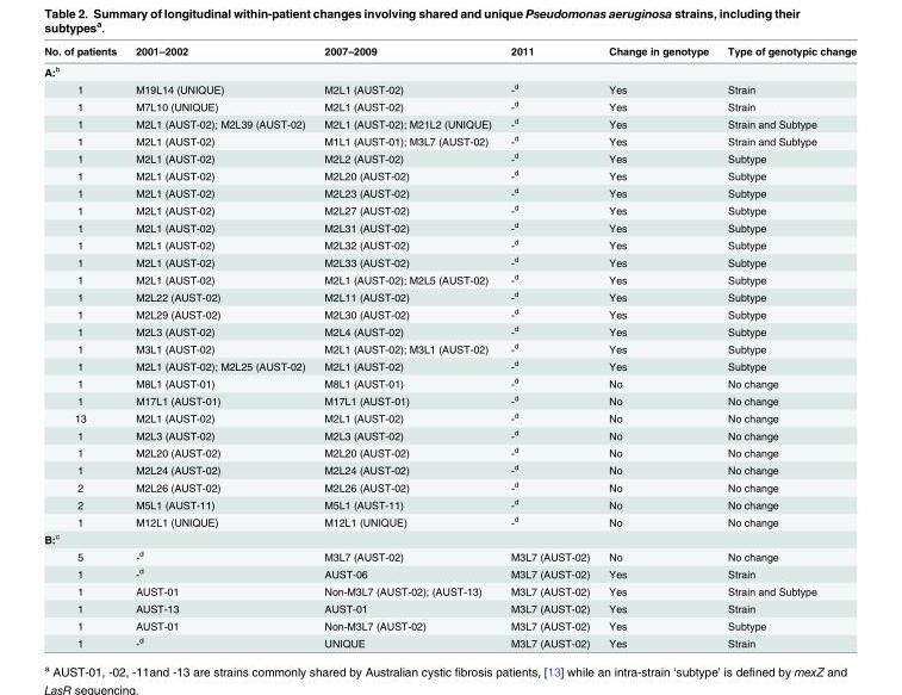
<table><thead><tr><td>No. of patients</td><td>2001–2002</td><td>2007–2009</td><td>2011</td><td>Change in genotype</td><td>Type of genotypic change</td></tr></thead><tbody><tr><td colspan="6">A:<sup>b</sup></td></tr><tr><td>1</td><td>M19L14 (UNIQUE)</td><td>M2L1 (AUST-02)</td><td>-<sup>d</sup></td><td>Yes</td><td>Strain</td></tr><tr><td>1</td><td>M7L10 (UNIQUE)</td><td>M2L1 (AUST-02)</td><td>-<sup>d</sup></td><td>Yes</td><td>Strain</td></tr><tr><td>1</td><td>M2L1 (AUST-02); M2L39 (AUST-02)</td><td>M2L1 (AUST-02); M21L2 (UNIQUE)</td><td>-<sup>d</sup></td><td>Yes</td><td>Strain and Subtype</td></tr><tr><td>1</td><td>M2L1 (AUST-02)</td><td>M1L1 (AUST-01); M3L7 (AUST-02)</td><td>-<sup>d</sup></td><td>Yes</td><td>Strain and Subtype</td></tr><tr><td>1</td><td>M2L1 (AUST-02)</td><td>M2L2 (AUST-02)</td><td>-<sup>d</sup></td><td>Yes</td><td>Subtype</td></tr><tr><td>1</td><td>M2L1 (AUST-02)</td><td>M2L20 (AUST-02)</td><td>-<sup>d</sup></td><td>Yes</td><td>Subtype</td></tr><tr><td>1</td><td>M2L1 (AUST-02)</td><td>M2L23 (AUST-02)</td><td>-<sup>d</sup></td><td>Yes</td><td>Subtype</td></tr><tr><td>1</td><td>M2L1 (AUST-02)</td><td>M2L27 (AUST-02)</td><td>-<sup>d</sup></td><td>Yes</td><td>Subtype</td></tr><tr><td>1</td><td>M2L1 (AUST-02)</td><td>M2L31 (AUST-02)</td><td>-<sup>d</sup></td><td>Yes</td><td>Subtype</td></tr><tr><td>1</td><td>M2L1 (AUST-02)</td><td>M2L32 (AUST-02)</td><td>-<sup>d</sup></td><td>Yes</td><td>Subtype</td></tr><tr><td>1</td><td>M2L1 (AUST-02)</td><td>M2L33 (AUST-02)</td><td>-<sup>d</sup></td><td>Yes</td><td>Subtype</td></tr><tr><td>1</td><td>M2L1 (AUST-02)</td><td>M2L1 (AUST-02); M2L5 (AUST-02)</td><td>-<sup>d</sup></td><td>Yes</td><td>Subtype</td></tr><tr><td>1</td><td>M2L22 (AUST-02)</td><td>M2L11 (AUST-02)</td><td>-<sup>d</sup></td><td>Yes</td><td>Subtype</td></tr><tr><td>1</td><td>M2L29 (AUST-02)</td><td>M2L30 (AUST-02)</td><td>-<sup>d</sup></td><td>Yes</td><td>Subtype</td></tr><tr><td>1</td><td>M2L3 (AUST-02)</td><td>M2L4 (AUST-02)</td><td>-<sup>d</sup></td><td>Yes</td><td>Subtype</td></tr><tr><td>1</td><td>M3L1 (AUST-02)</td><td>M2L1 (AUST-02); M3L1 (AUST-02)</td><td>-<sup>d</sup></td><td>Yes</td><td>Subtype</td></tr><tr><td>1</td><td>M2L1 (AUST-02); M2L25 (AUST-02)</td><td>M2L1 (AUST-02)</td><td>-<sup>d</sup></td><td>Yes</td><td>Subtype</td></tr><tr><td>1</td><td>M8L1 (AUST-01)</td><td>M8L1 (AUST-01)</td><td>-<sup>d</sup></td><td>No</td><td>No change</td></tr><tr><td>1</td><td>M17L1 (AUST-01)</td><td>M17L1 (AUST-01)</td><td>-<sup>d</sup></td><td>No</td><td>No change</td></tr><tr><td>13</td><td>M2L1 (AUST-02)</td><td>M2L1 (AUST-02)</td><td>-<sup>d</sup></td><td>No</td><td>No change</td></tr><tr><td>1</td><td>M2L3 (AUST-02)</td><td>M2L3 (AUST-02)</td><td>-<sup>d</sup></td><td>No</td><td>No change</td></tr><tr><td>1</td><td>M2L20 (AUST-02)</td><td>M2L20 (AUST-02)</td><td>-<sup>d</sup></td><td>No</td><td>No change</td></tr><tr><td>1</td><td>M2L24 (AUST-02)</td><td>M2L24 (AUST-02)</td><td>-<sup>d</sup></td><td>No</td><td>No change</td></tr><tr><td>2</td><td>M2L26 (AUST-02)</td><td>M2L26 (AUST-02)</td><td>-<sup>d</sup></td><td>No</td><td>No change</td></tr><tr><td>2</td><td>M5L1 (AUST-11)</td><td>M5L1 (AUST-11)</td><td>-<sup>d</sup></td><td>No</td><td>No change</td></tr><tr><td>1</td><td>M12L1 (UNIQUE)</td><td>M12L1 (UNIQUE)</td><td>-<sup>d</sup></td><td>No</td><td>No change</td></tr><tr><td colspan="6">B:<sup>c</sup></td></tr><tr><td>5</td><td>-<sup>d</sup></td><td>M3L7 (AUST-02)</td><td>M3L7 (AUST-02)</td><td>No</td><td>No change</td></tr><tr><td>1</td><td>-<sup>d</sup></td><td>AUST-06</td><td>M3L7 (AUST-02)</td><td>Yes</td><td>Strain</td></tr><tr><td>1</td><td>AUST-01</td><td>Non-M3L7 (AUST-02); (AUST-13)</td><td>M3L7 (AUST-02)</td><td>Yes</td><td>Strain and Subtype</td></tr><tr><td>1</td><td>AUST-13</td><td>AUST-01</td><td>M3L7 (AUST-02)</td><td>Yes</td><td>Strain</td></tr><tr><td>1</td><td>AUST-01</td><td>Non-M3L7 (AUST-02)</td><td>M3L7 (AUST-02)</td><td>Yes</td><td>Subtype</td></tr><tr><td>1</td><td>-<sup>d</sup></td><td>UNIQUE</td><td>M3L7 (AUST-02)</td><td>Yes</td><td>Strain</td></tr></tbody></table>